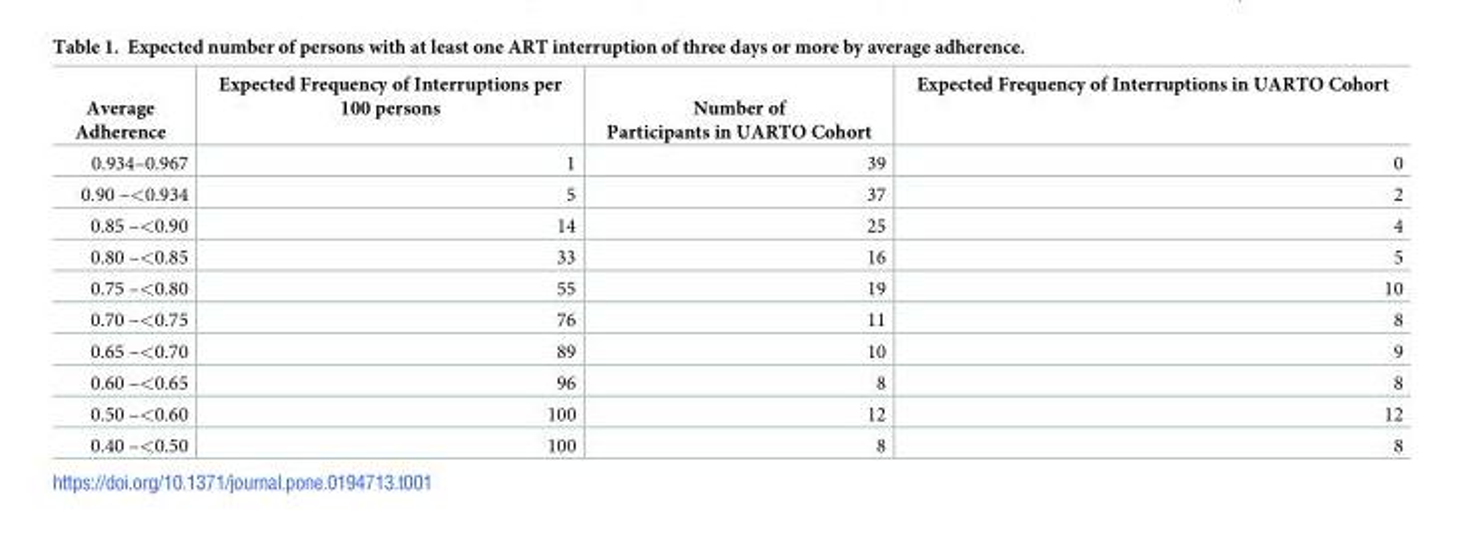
<table><thead><tr><td>Average Adherence</td><td>Expected Frequency of Interruptions per 100 persons</td><td>Number of Participants in UARTO Cohort</td><td>Expected Frequency of Interruptions in UARTO Cohort</td></tr></thead><tbody><tr><td>0.934–0.967</td><td>1</td><td>39</td><td>0</td></tr><tr><td>0.90 –&lt;0.934</td><td>5</td><td>37</td><td>2</td></tr><tr><td>0.85 –&lt;0.90</td><td>14</td><td>25</td><td>4</td></tr><tr><td>0.80 –&lt;0.85</td><td>33</td><td>16</td><td>5</td></tr><tr><td>0.75 –&lt;0.80</td><td>55</td><td>19</td><td>10</td></tr><tr><td>0.70 –&lt;0.75</td><td>76</td><td>11</td><td>8</td></tr><tr><td>0.65 –&lt;0.70</td><td>89</td><td>10</td><td>9</td></tr><tr><td>0.60 –&lt;0.65</td><td>96</td><td>8</td><td>8</td></tr><tr><td>0.50 –&lt;0.60</td><td>100</td><td>12</td><td>12</td></tr><tr><td>0.40 –&lt;0.50</td><td>100</td><td>8</td><td>8</td></tr></tbody></table>